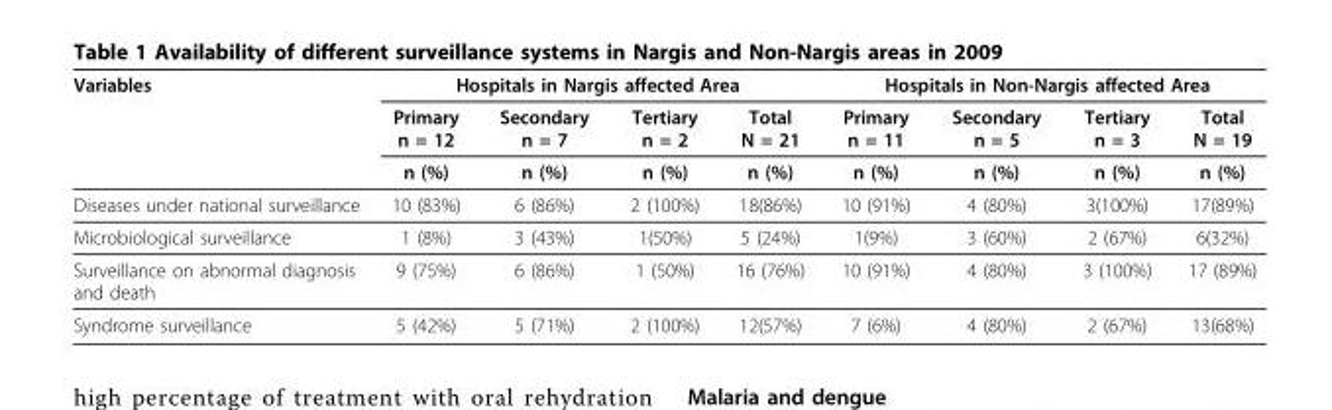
<table><thead><tr><td rowspan="3">Variables</td><td colspan="4">Hospitals in Nargis affected Area</td><td colspan="4">Hospitals in Non-Nargis affected Area</td></tr><tr><td rowspan="2">Primary n = 12 n (%)</td><td rowspan="2">Secondary n = 7 n (%)</td><td rowspan="2">Tertiary n = 2 n (%)</td><td rowspan="2">Total N = 21 n (%)</td><td rowspan="2">Primary n = 11 n (%)</td><td rowspan="2">Secondary n = 5 n (%)</td><td rowspan="2">Tertiary n = 3 n (%)</td><td rowspan="2">Total N = 19 n (%)</td></tr><tr></tr></thead><tbody><tr><td>Diseases under national surveillance</td><td>10 (83%)</td><td>6 (86%)</td><td>2 (100%)</td><td>18(86%)</td><td>10 (91%)</td><td>4 (80%)</td><td>3(100%)</td><td>17(89%)</td></tr><tr><td>Microbiological surveillance</td><td>1 (8%)</td><td>3 (43%)</td><td>1(50%)</td><td>5 (24%)</td><td>1(9%)</td><td>3 (60%)</td><td>2 (67%)</td><td>6(32%)</td></tr><tr><td>Surveillance on abnormal diagnosis and death</td><td>9 (75%)</td><td>6 (86%)</td><td>1 (50%)</td><td>16 (76%)</td><td>10 (91%)</td><td>4 (80%)</td><td>3 (100%)</td><td>17 (89%)</td></tr><tr><td>Syndrome surveillance</td><td>5 (42%)</td><td>5 (71%)</td><td>2 (100%)</td><td>12(57%)</td><td>7 (6%)</td><td>4 (80%)</td><td>2 (67%)</td><td>13(68%)</td></tr></tbody></table>